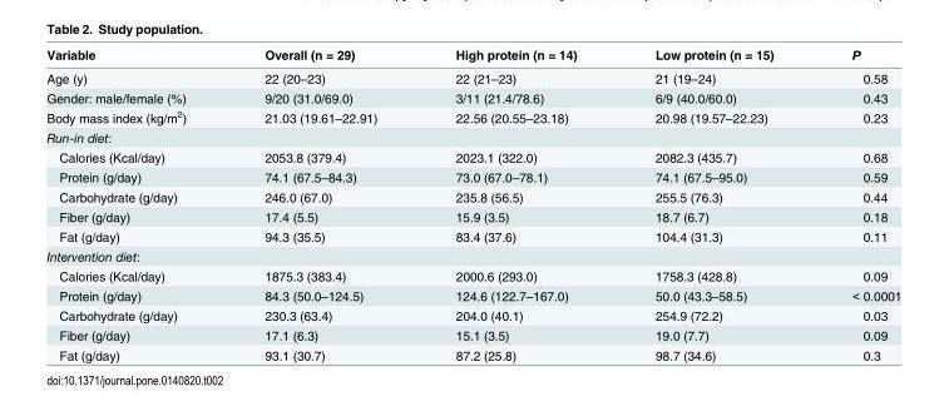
<table><thead><tr><td>Variable</td><td>Overall (n = 29)</td><td>High protein (n = 14)</td><td>Low protein (n = 15)</td><td>P</td></tr></thead><tbody><tr><td>Age (y)</td><td>22 (20–23)</td><td>22 (21–23)</td><td>21 (19–24)</td><td>0.58</td></tr><tr><td>Gender: male/female (%)</td><td>9/20 (31.0/69.0)</td><td>3/11 (21.4/78.6)</td><td>6/9 (40.0/60.0)</td><td>0.43</td></tr><tr><td>Body mass index (kg/m<sup>2</sup>)</td><td>21.03 (19.61–22.91)</td><td>22.56 (20.55–23.18)</td><td>20.98 (19.57–22.23)</td><td>0.23</td></tr><tr><td colspan="5">Run-in diet:</td></tr><tr><td>Calories (Kcal/day)</td><td>2053.8 (379.4)</td><td>2023.1 (322.0)</td><td>2082.3 (435.7)</td><td>0.68</td></tr><tr><td>Protein (g/day)</td><td>74.1 (67.5–84.3)</td><td>73.0 (67.0–78.1)</td><td>74.1 (67.5–95.0)</td><td>0.59</td></tr><tr><td>Carbohydrate (g/day)</td><td>246.0 (67.0)</td><td>235.8 (56.5)</td><td>255.5 (76.3)</td><td>0.44</td></tr><tr><td>Fiber (g/day)</td><td>17.4 (5.5)</td><td>15.9 (3.5)</td><td>18.7 (6.7)</td><td>0.18</td></tr><tr><td>Fat (g/day)</td><td>94.3 (35.5)</td><td>83.4 (37.6)</td><td>104.4 (31.3)</td><td>0.11</td></tr><tr><td colspan="5">Intervention diet:</td></tr><tr><td>Calories (Kcal/day)</td><td>1875.3 (383.4)</td><td>2000.6 (293.0)</td><td>1758.3 (428.8)</td><td>0.09</td></tr><tr><td>Protein (g/day)</td><td>84.3 (50.0–124.5)</td><td>124.6 (122.7–167.0)</td><td>50.0 (43.3–58.5)</td><td>&lt; 0.0001</td></tr><tr><td>Carbohydrate (g/day)</td><td>230.3 (63.4)</td><td>204.0 (40.1)</td><td>254.9 (72.2)</td><td>0.03</td></tr><tr><td>Fiber (g/day)</td><td>17.1 (6.3)</td><td>15.1 (3.5)</td><td>19.0 (7.7)</td><td>0.09</td></tr><tr><td>Fat (g/day)</td><td>93.1 (30.7)</td><td>87.2 (25.8)</td><td>98.7 (34.6)</td><td>0.3</td></tr></tbody></table>